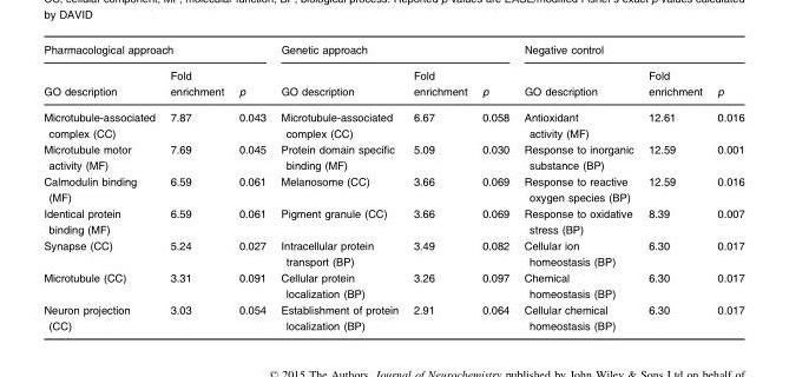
<table><thead><tr><td colspan="3">Pharmacological approach</td><td colspan="3">Genetic approach</td><td colspan="3">Negative control</td></tr><tr><td>GO description</td><td>Fold enrichment</td><td>p</td><td>GO description</td><td>Fold enrichment</td><td>p</td><td>GO description</td><td>Fold enrichment</td><td>p</td></tr></thead><tbody><tr><td>Microtubule-associated complex (CC)</td><td>7.87</td><td>0.043</td><td>Microtubule-associated complex (CC)</td><td>6.67</td><td>0.058</td><td>Antioxidant activity (MF)</td><td>12.61</td><td>0.016</td></tr><tr><td>Microtubule motor activity (MF)</td><td>7.69</td><td>0.045</td><td>Protein domain specific binding (MF)</td><td>5.09</td><td>0.030</td><td>Response to inorganic substance (BP)</td><td>12.59</td><td>0.001</td></tr><tr><td>Calmodulin binding (MF)</td><td>6.59</td><td>0.061</td><td>Melanosome (CC)</td><td>3.66</td><td>0.069</td><td>Response to reactive oxygen species (BP)</td><td>12.59</td><td>0.016</td></tr><tr><td>Identical protein binding (MF)</td><td>6.59</td><td>0.061</td><td>Pigment granule (CC)</td><td>3.66</td><td>0.069</td><td>Response to oxidative stress (BP)</td><td>8.39</td><td>0.007</td></tr><tr><td>Synapse (CC)</td><td>5.24</td><td>0.027</td><td>Intracellular protein transport (BP)</td><td>3.49</td><td>0.082</td><td>Cellular ion homeostasis (BP)</td><td>6.30</td><td>0.017</td></tr><tr><td>Microtubule (CC)</td><td>3.31</td><td>0.091</td><td>Cellular protein localization (BP)</td><td>3.26</td><td>0.097</td><td>Chemical homeostasis (BP)</td><td>6.30</td><td>0.017</td></tr><tr><td>Neuron projection (CC)</td><td>3.03</td><td>0.054</td><td>Establishment of protein localization (BP)</td><td>2.91</td><td>0.064</td><td>Cellular chemical homeostasis (BP)</td><td>6.30</td><td>0.017</td></tr></tbody></table>